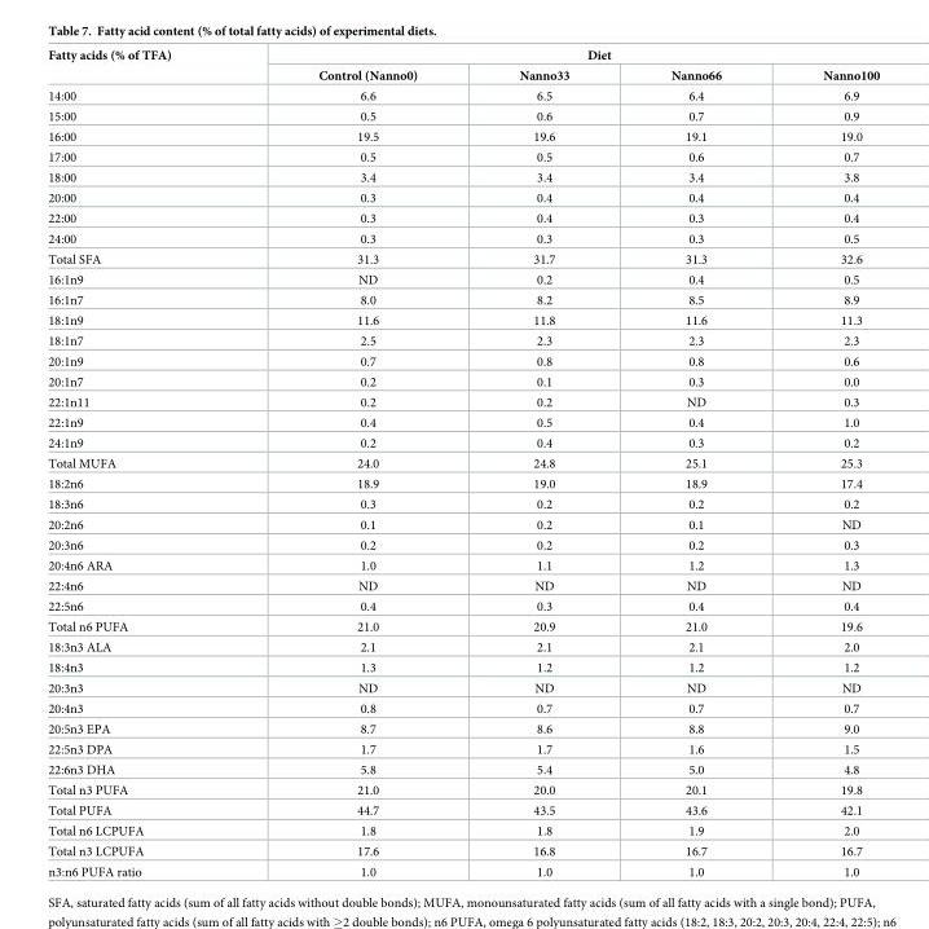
<table><thead><tr><td rowspan="2">Fatty acids (% of TFA)</td><td colspan="4">Diet</td></tr><tr><td>Control (Nanno0)</td><td>Nanno33</td><td>Nanno66</td><td>Nanno100</td></tr></thead><tbody><tr><td>14:00</td><td>6.6</td><td>6.5</td><td>6.4</td><td>6.9</td></tr><tr><td>15:00</td><td>0.5</td><td>0.6</td><td>0.7</td><td>0.9</td></tr><tr><td>16:00</td><td>19.5</td><td>19.6</td><td>19.1</td><td>19.0</td></tr><tr><td>17:00</td><td>0.5</td><td>0.5</td><td>0.6</td><td>0.7</td></tr><tr><td>18:00</td><td>3.4</td><td>3.4</td><td>3.4</td><td>3.8</td></tr><tr><td>20:00</td><td>0.3</td><td>0.4</td><td>0.4</td><td>0.4</td></tr><tr><td>22:00</td><td>0.3</td><td>0.4</td><td>0.3</td><td>0.4</td></tr><tr><td>24:00</td><td>0.3</td><td>0.3</td><td>0.3</td><td>0.5</td></tr><tr><td>Total SFA</td><td>31.3</td><td>31.7</td><td>31.3</td><td>32.6</td></tr><tr><td>16:1n9</td><td>ND</td><td>0.2</td><td>0.4</td><td>0.5</td></tr><tr><td>16:1n7</td><td>8.0</td><td>8.2</td><td>8.5</td><td>8.9</td></tr><tr><td>18:1n9</td><td>11.6</td><td>11.8</td><td>11.6</td><td>11.3</td></tr><tr><td>18:1n7</td><td>2.5</td><td>2.3</td><td>2.3</td><td>2.3</td></tr><tr><td>20:1n9</td><td>0.7</td><td>0.8</td><td>0.8</td><td>0.6</td></tr><tr><td>20:1n7</td><td>0.2</td><td>0.1</td><td>0.3</td><td>0.0</td></tr><tr><td>22:1n11</td><td>0.2</td><td>0.2</td><td>ND</td><td>0.3</td></tr><tr><td>22:1n9</td><td>0.4</td><td>0.5</td><td>0.4</td><td>1.0</td></tr><tr><td>24:1n9</td><td>0.2</td><td>0.4</td><td>0.3</td><td>0.2</td></tr><tr><td>Total MUFA</td><td>24.0</td><td>24.8</td><td>25.1</td><td>25.3</td></tr><tr><td>18:2n6</td><td>18.9</td><td>19.0</td><td>18.9</td><td>17.4</td></tr><tr><td>18:3n6</td><td>0.3</td><td>0.2</td><td>0.2</td><td>0.2</td></tr><tr><td>20:2n6</td><td>0.1</td><td>0.2</td><td>0.1</td><td>ND</td></tr><tr><td>20:3n6</td><td>0.2</td><td>0.2</td><td>0.2</td><td>0.3</td></tr><tr><td>20:4n6 ARA</td><td>1.0</td><td>1.1</td><td>1.2</td><td>1.3</td></tr><tr><td>22:4n6</td><td>ND</td><td>ND</td><td>ND</td><td>ND</td></tr><tr><td>22:5n6</td><td>0.4</td><td>0.3</td><td>0.4</td><td>0.4</td></tr><tr><td>Total n6 PUFA</td><td>21.0</td><td>20.9</td><td>21.0</td><td>19.6</td></tr><tr><td>18:3n3 ALA</td><td>2.1</td><td>2.1</td><td>2.1</td><td>2.0</td></tr><tr><td>18:4n3</td><td>1.3</td><td>1.2</td><td>1.2</td><td>1.2</td></tr><tr><td>20:3n3</td><td>ND</td><td>ND</td><td>ND</td><td>ND</td></tr><tr><td>20:4n3</td><td>0.8</td><td>0.7</td><td>0.7</td><td>0.7</td></tr><tr><td>20:5n3 EPA</td><td>8.7</td><td>8.6</td><td>8.8</td><td>9.0</td></tr><tr><td>22:5n3 DPA</td><td>1.7</td><td>1.7</td><td>1.6</td><td>1.5</td></tr><tr><td>22:6n3 DHA</td><td>5.8</td><td>5.4</td><td>5.0</td><td>4.8</td></tr><tr><td>Total n3 PUFA</td><td>21.0</td><td>20.0</td><td>20.1</td><td>19.8</td></tr><tr><td>Total PUFA</td><td>44.7</td><td>43.5</td><td>43.6</td><td>42.1</td></tr><tr><td>Total n6 LCPUFA</td><td>1.8</td><td>1.8</td><td>1.9</td><td>2.0</td></tr><tr><td>Total n3 LCPUFA</td><td>17.6</td><td>16.8</td><td>16.7</td><td>16.7</td></tr><tr><td>n3:n6 PUFA ratio</td><td>1.0</td><td>1.0</td><td>1.0</td><td>1.0</td></tr></tbody></table>